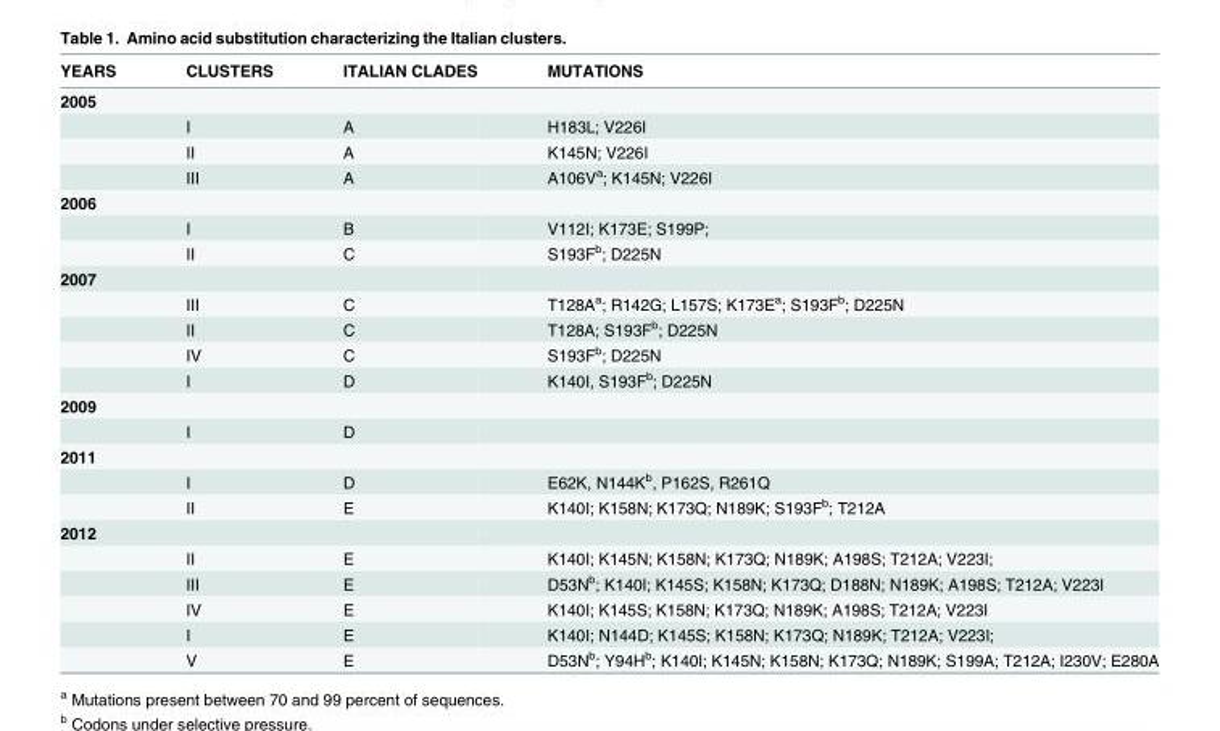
<table><thead><tr><td>YEARS</td><td>CLUSTERS</td><td>ITALIAN CLADES</td><td>MUTATIONS</td></tr></thead><tbody><tr><td colspan="4">2005</td></tr><tr><td></td><td>I</td><td>A</td><td>H183L; V226I</td></tr><tr><td></td><td>II</td><td>A</td><td>K145N; V226I</td></tr><tr><td></td><td>III</td><td>A</td><td>A106V<sup>a</sup>; K145N; V226I</td></tr><tr><td colspan="4">2006</td></tr><tr><td></td><td>I</td><td>B</td><td>V112I; K173E; S199P;</td></tr><tr><td></td><td>II</td><td>C</td><td>S193F<sup>b</sup>; D225N</td></tr><tr><td colspan="4">2007</td></tr><tr><td></td><td>III</td><td>C</td><td>T128A<sup>a</sup>; R142G; L157S; K173E<sup>a</sup>; S193F<sup>b</sup>; D225N</td></tr><tr><td></td><td>II</td><td>C</td><td>T128A; S193F<sup>b</sup>; D225N</td></tr><tr><td></td><td>IV</td><td>C</td><td>S193F<sup>b</sup>; D225N</td></tr><tr><td></td><td>I</td><td>D</td><td>K140I, S193F<sup>b</sup>; D225N</td></tr><tr><td colspan="4">2009</td></tr><tr><td></td><td>I</td><td>D</td><td></td></tr><tr><td colspan="4">2011</td></tr><tr><td></td><td>I</td><td>D</td><td>E62K, N144K<sup>b</sup>, P162S, R261Q</td></tr><tr><td></td><td>II</td><td>E</td><td>K140I; K158N; K173Q; N189K; S193F<sup>b</sup>; T212A</td></tr><tr><td colspan="4">2012</td></tr><tr><td></td><td>II</td><td>E</td><td>K140I; K145N; K158N; K173Q; N189K; A198S; T212A; V223I;</td></tr><tr><td></td><td>III</td><td>E</td><td>D53N<sup>b</sup>; K140I; K145S; K158N; K173Q; D188N; N189K; A198S; T212A; V223I</td></tr><tr><td></td><td>IV</td><td>E</td><td>K140I; K145S; K158N; K173Q; N189K; A198S; T212A; V223I</td></tr><tr><td></td><td>I</td><td>E</td><td>K140I; N144D; K145S; K158N; K173Q; N189K; T212A; V223I;</td></tr><tr><td></td><td>V</td><td>E</td><td>D53N<sup>b</sup>; Y94H<sup>b</sup>; K140I; K145N; K158N; K173Q; N189K; S199A; T212A; I230V; E280A</td></tr></tbody></table>